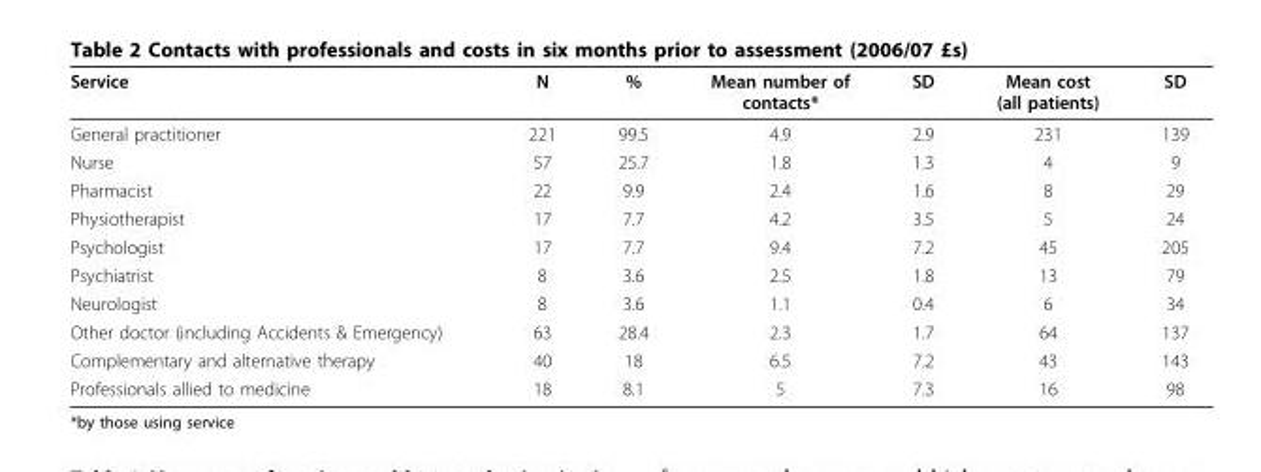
<table><thead><tr><td>Service</td><td>N</td><td>%</td><td>Mean number of contacts*</td><td>SD</td><td>Mean cost (all patients)</td><td>SD</td></tr></thead><tbody><tr><td>General practitioner</td><td>221</td><td>99.5</td><td>4.9</td><td>2.9</td><td>231</td><td>139</td></tr><tr><td>Nurse</td><td>57</td><td>25.7</td><td>1.8</td><td>1.3</td><td>4</td><td>9</td></tr><tr><td>Pharmacist</td><td>22</td><td>9.9</td><td>2.4</td><td>1.6</td><td>8</td><td>29</td></tr><tr><td>Physiotherapist</td><td>17</td><td>7.7</td><td>4.2</td><td>3.5</td><td>5</td><td>24</td></tr><tr><td>Psychologist</td><td>17</td><td>7.7</td><td>9.4</td><td>7.2</td><td>45</td><td>205</td></tr><tr><td>Psychiatrist</td><td>8</td><td>3.6</td><td>2.5</td><td>1.8</td><td>13</td><td>79</td></tr><tr><td>Neurologist</td><td>8</td><td>3.6</td><td>1.1</td><td>0.4</td><td>6</td><td>34</td></tr><tr><td>Other doctor (including Accidents &amp; Emergency)</td><td>63</td><td>28.4</td><td>2.3</td><td>1.7</td><td>64</td><td>137</td></tr><tr><td>Complementary and alternative therapy</td><td>40</td><td>18</td><td>6.5</td><td>7.2</td><td>43</td><td>143</td></tr><tr><td>Professionals allied to medicine</td><td>18</td><td>8.1</td><td>5</td><td>7.3</td><td>16</td><td>98</td></tr></tbody></table>